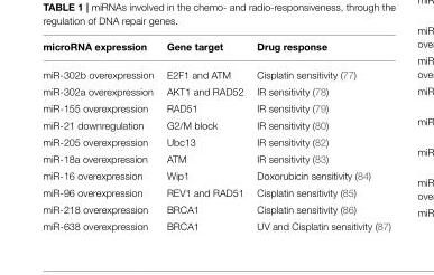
<table><thead><tr><td>microRNA expression</td><td>Gene target</td><td>Drug response</td></tr></thead><tbody><tr><td>miR-302b overexpression</td><td>E2F1 and ATM</td><td>Cisplatin sensitivity (77)</td></tr><tr><td>miR-302a overexpression</td><td>AKT1 and RAD52</td><td>IR sensitivity (78)</td></tr><tr><td>miR-155 overexpression</td><td>RAD51</td><td>IR sensitivity (79)</td></tr><tr><td>miR-21 downregulation</td><td>G2/M block</td><td>IR sensitivity (80)</td></tr><tr><td>miR-205 overexpression</td><td>Ubc13</td><td>IR sensitivity (82)</td></tr><tr><td>miR-18a overexpression</td><td>ATM</td><td>IR sensitivity (83)</td></tr><tr><td>miR-16 overexpression</td><td>Wip1</td><td>Doxorubicin sensitivity (84)</td></tr><tr><td>miR-96 overexpression</td><td>REV1 and RAD51</td><td>Cisplatin sensitivity (85)</td></tr><tr><td>miR-218 overexpression</td><td>BRCA1</td><td>Cisplatin sensitivity (86)</td></tr><tr><td>miR-638 overexpression</td><td>BRCA1</td><td>UV and Cisplatin sensitivity (87)</td></tr></tbody></table>